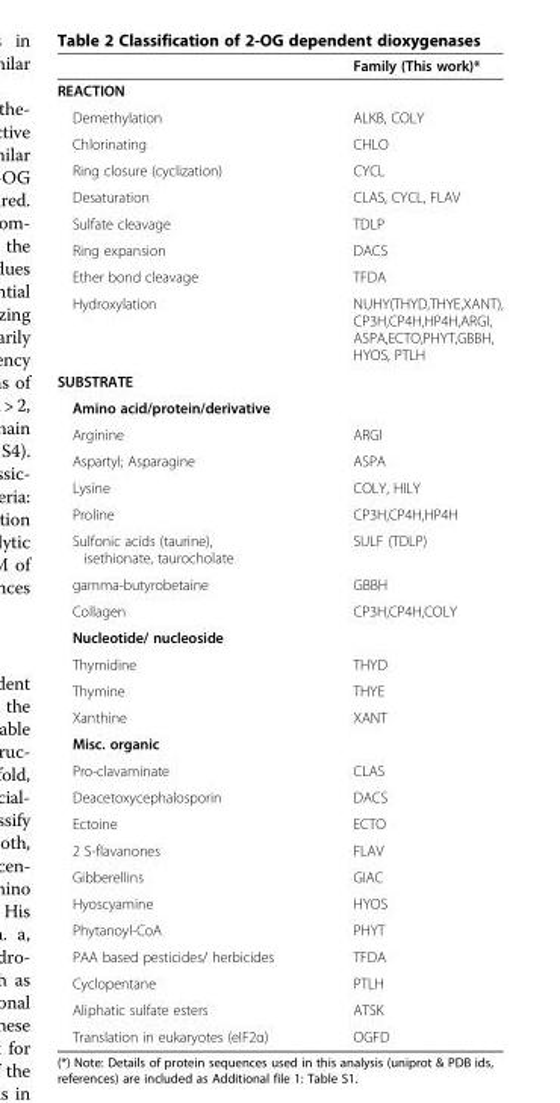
<table><thead><tr><td></td><td>Family (This work)*</td></tr></thead><tbody><tr><td colspan="2">REACTION</td></tr><tr><td>Demethylation</td><td>ALKB, COLY</td></tr><tr><td>Chlorinating</td><td>CHLO</td></tr><tr><td>Ring closure (cyclization)</td><td>CYCL</td></tr><tr><td>Desaturation</td><td>CLAS, CYCL, FLAV</td></tr><tr><td>Sulfate cleavage</td><td>TDLP</td></tr><tr><td>Ring expansion</td><td>DACS</td></tr><tr><td>Ether bond cleavage</td><td>TFDA</td></tr><tr><td>Hydroxylation</td><td>NUHY(THYD,THYE,XANT), CP3H,CP4H,HP4H,ARGI, ASPA,ECTO,PHYT,GBBH, HYOS, PTLH</td></tr><tr><td colspan="2">SUBSTRATE</td></tr><tr><td colspan="2">Amino acid/protein/derivative</td></tr><tr><td>Arginine</td><td>ARGI</td></tr><tr><td>Aspartyl; Asparagine</td><td>ASPA</td></tr><tr><td>Lysine</td><td>COLY, HILY</td></tr><tr><td>Proline</td><td>CP3H,CP4H,HP4H</td></tr><tr><td>Sulfonic acids (taurine), isethionate, taurocholate</td><td>SULF (TDLP)</td></tr><tr><td>gamma-butyrobetaine</td><td>GBBH</td></tr><tr><td>Collagen</td><td>CP3H,CP4H,COLY</td></tr><tr><td colspan="2">Nucleotide/ nucleoside</td></tr><tr><td>Thymidine</td><td>THYD</td></tr><tr><td>Thymine</td><td>THYE</td></tr><tr><td>Xanthine</td><td>XANT</td></tr><tr><td colspan="2">Misc. organic</td></tr><tr><td>Pro-clavaminate</td><td>CLAS</td></tr><tr><td>Deacetoxycephalosporin</td><td>DACS</td></tr><tr><td>Ectoine</td><td>ECTO</td></tr><tr><td>2 S-flavanones</td><td>FLAV</td></tr><tr><td>Gibberellins</td><td>GIAC</td></tr><tr><td>Hyoscyamine</td><td>HYOS</td></tr><tr><td>Phytanoyl-CoA</td><td>PHYT</td></tr><tr><td>PAA based pesticides/ herbicides</td><td>TFDA</td></tr><tr><td>Cyclopentane</td><td>PTLH</td></tr><tr><td>Aliphatic sulfate esters</td><td>ATSK</td></tr><tr><td>Translation in eukaryotes (eIF2α)</td><td>OGFD</td></tr></tbody></table>